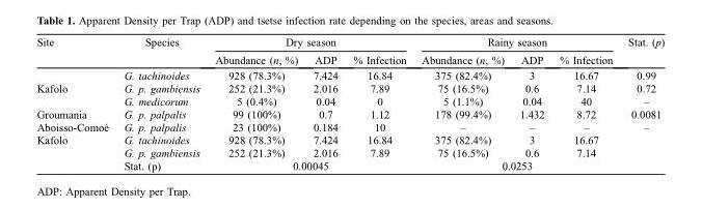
<table><thead><tr><td rowspan="2">Site</td><td rowspan="2">Species</td><td colspan="3">Dry season</td><td colspan="3">Rainy season</td><td rowspan="2">Stat. (p)</td></tr><tr><td>Abundance (n, %)</td><td>ADP</td><td>% Infection</td><td>Abundance (n, %)</td><td>ADP</td><td>% Infection</td></tr></thead><tbody><tr><td></td><td>G. tachinoides</td><td>928 (78.3%)</td><td>7.424</td><td>16.84</td><td>375 (82.4%)</td><td>3</td><td>16.67</td><td>0.99</td></tr><tr><td rowspan="2">Kafolo</td><td>G. p. gambiensis</td><td>252 (21.3%)</td><td>2.016</td><td>7.89</td><td>75 (16.5%)</td><td>0.6</td><td>7.14</td><td>0.72</td></tr><tr><td>G. medicorum</td><td>5 (0.4%)</td><td>0.04</td><td>0</td><td>5 (1.1%)</td><td>0.04</td><td>40</td><td>–</td></tr><tr><td>Groumania</td><td>G. p. palpalis</td><td>99 (100%)</td><td>0.7</td><td>1.12</td><td>178 (99.4%)</td><td>1.432</td><td>8.72</td><td>0.0081</td></tr><tr><td>Aboisso-Comoé</td><td>G. p. palpalis</td><td>23 (100%)</td><td>0.184</td><td>10</td><td>–</td><td>–</td><td>–</td><td>–</td></tr><tr><td rowspan="3">Kafolo</td><td>G. tachinoides</td><td>928 (78.3%)</td><td>7.424</td><td>16.84</td><td>375 (82.4%)</td><td>3</td><td>16.67</td><td></td></tr><tr><td>G. p. gambiensis</td><td>252 (21.3%)</td><td>2.016</td><td>7.89</td><td>75 (16.5%)</td><td>0.6</td><td>7.14</td><td></td></tr><tr><td>Stat. (p)</td><td colspan="3">0.00045</td><td colspan="3">0.0253</td><td></td></tr></tbody></table>